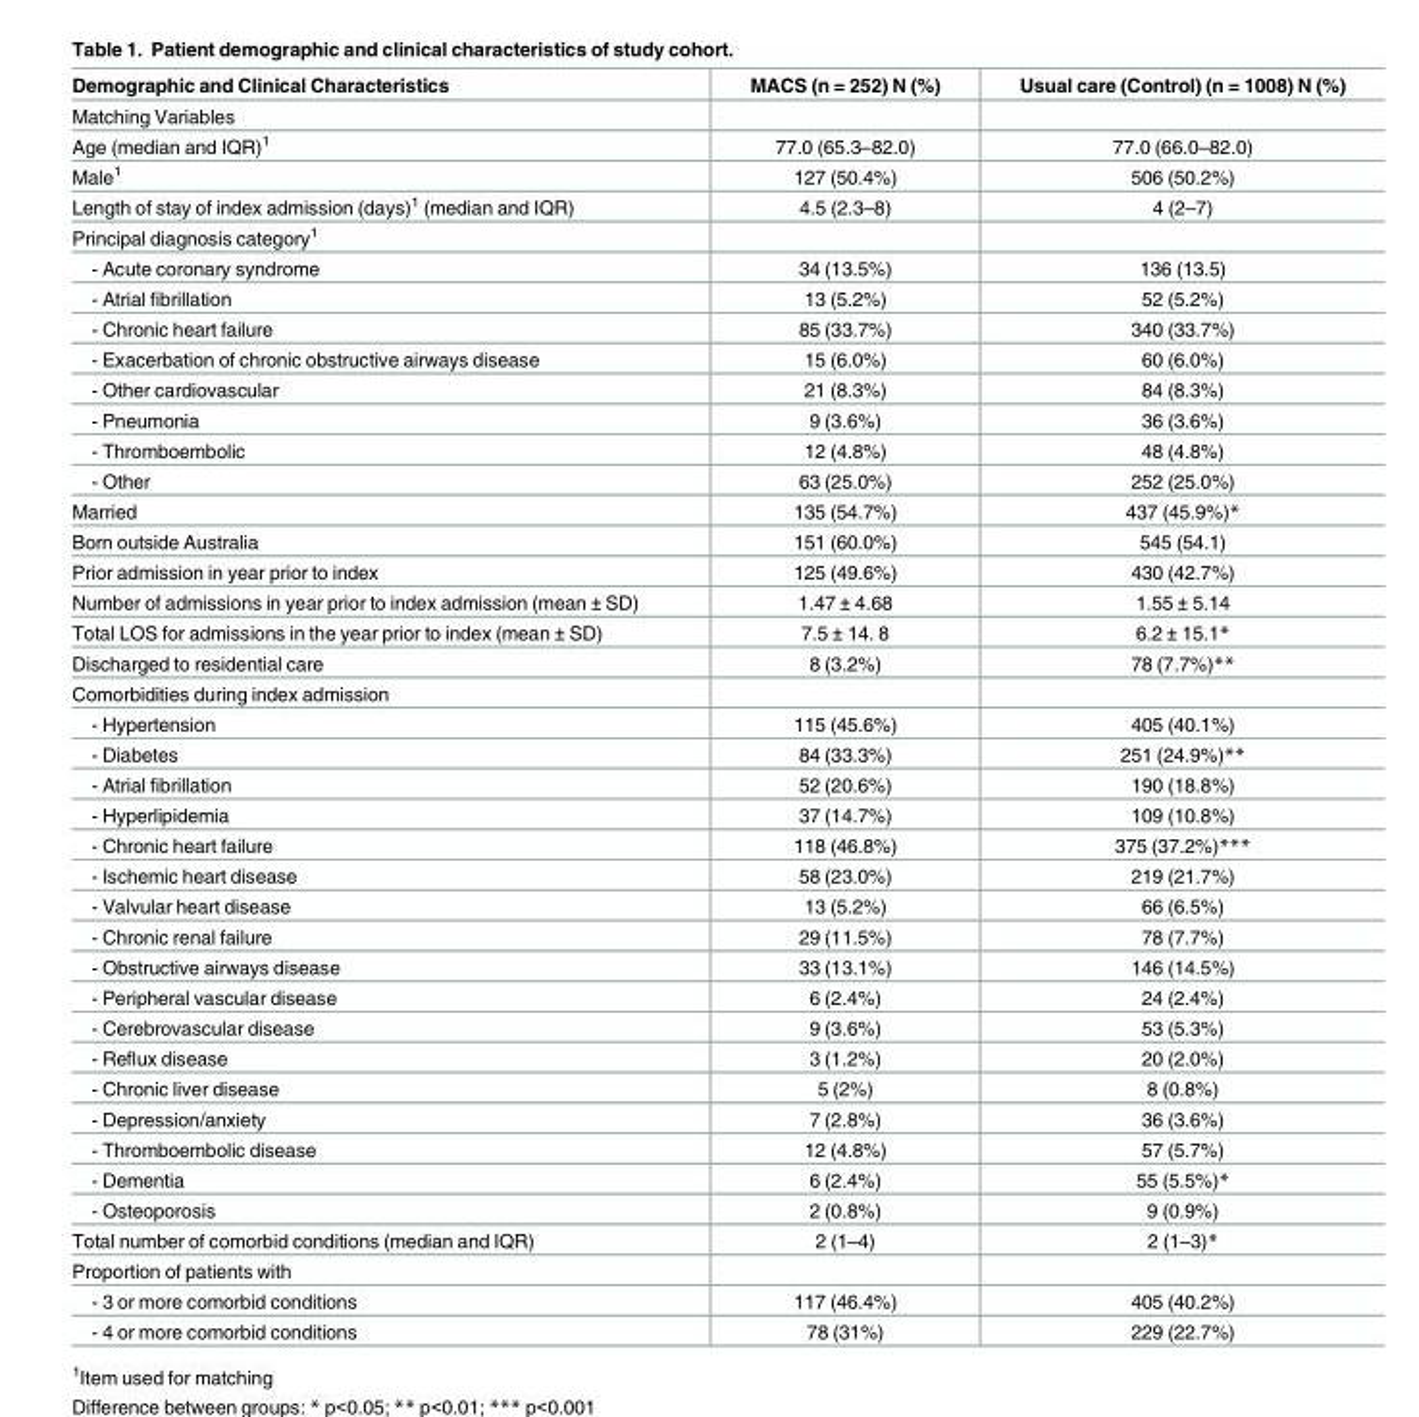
<table><thead><tr><td>Demographic and Clinical Characteristics</td><td>MACS (n = 252) N (%)</td><td>Usual care (Control) (n = 1008) N (%)</td></tr></thead><tbody><tr><td colspan="3">Matching Variables</td></tr><tr><td>Age (median and IQR)<sup>1</sup></td><td>77.0 (65.3–82.0)</td><td>77.0 (66.0–82.0)</td></tr><tr><td>Male<sup>1</sup></td><td>127 (50.4%)</td><td>506 (50.2%)</td></tr><tr><td>Length of stay of index admission (days)<sup>1</sup> (median and IQR)</td><td>4.5 (2.3–8)</td><td>4 (2–7)</td></tr><tr><td colspan="3">Principal diagnosis category<sup>1</sup></td></tr><tr><td>- Acute coronary syndrome</td><td>34 (13.5%)</td><td>136 (13.5)</td></tr><tr><td>- Atrial fibrillation</td><td>13 (5.2%)</td><td>52 (5.2%)</td></tr><tr><td>- Chronic heart failure</td><td>85 (33.7%)</td><td>340 (33.7%)</td></tr><tr><td>- Exacerbation of chronic obstructive airways disease</td><td>15 (6.0%)</td><td>60 (6.0%)</td></tr><tr><td>- Other cardiovascular</td><td>21 (8.3%)</td><td>84 (8.3%)</td></tr><tr><td>- Pneumonia</td><td>9 (3.6%)</td><td>36 (3.6%)</td></tr><tr><td>- Thromboembolic</td><td>12 (4.8%)</td><td>48 (4.8%)</td></tr><tr><td>- Other</td><td>63 (25.0%)</td><td>252 (25.0%)</td></tr><tr><td>Married</td><td>135 (54.7%)</td><td>437 (45.9%)*</td></tr><tr><td>Born outside Australia</td><td>151 (60.0%)</td><td>545 (54.1)</td></tr><tr><td>Prior admission in year prior to index</td><td>125 (49.6%)</td><td>430 (42.7%)</td></tr><tr><td>Number of admissions in year prior to index admission (mean ± SD)</td><td>1.47 ± 4.68</td><td>1.55 ± 5.14</td></tr><tr><td>Total LOS for admissions in the year prior to index (mean ± SD)</td><td>7.5 ± 14. 8</td><td>6.2 ± 15.1*</td></tr><tr><td>Discharged to residential care</td><td>8 (3.2%)</td><td>78 (7.7%)**</td></tr><tr><td colspan="3">Comorbidities during index admission</td></tr><tr><td>- Hypertension</td><td>115 (45.6%)</td><td>405 (40.1%)</td></tr><tr><td>- Diabetes</td><td>84 (33.3%)</td><td>251 (24.9%)**</td></tr><tr><td>- Atrial fibrillation</td><td>52 (20.6%)</td><td>190 (18.8%)</td></tr><tr><td>- Hyperlipidemia</td><td>37 (14.7%)</td><td>109 (10.8%)</td></tr><tr><td>- Chronic heart failure</td><td>118 (46.8%)</td><td>375 (37.2%)***</td></tr><tr><td>- Ischemic heart disease</td><td>58 (23.0%)</td><td>219 (21.7%)</td></tr><tr><td>- Valvular heart disease</td><td>13 (5.2%)</td><td>66 (6.5%)</td></tr><tr><td>- Chronic renal failure</td><td>29 (11.5%)</td><td>78 (7.7%)</td></tr><tr><td>- Obstructive airways disease</td><td>33 (13.1%)</td><td>146 (14.5%)</td></tr><tr><td>- Peripheral vascular disease</td><td>6 (2.4%)</td><td>24 (2.4%)</td></tr><tr><td>- Cerebrovascular disease</td><td>9 (3.6%)</td><td>53 (5.3%)</td></tr><tr><td>- Reflux disease</td><td>3 (1.2%)</td><td>20 (2.0%)</td></tr><tr><td>- Chronic liver disease</td><td>5 (2%)</td><td>8 (0.8%)</td></tr><tr><td>- Depression/anxiety</td><td>7 (2.8%)</td><td>36 (3.6%)</td></tr><tr><td>- Thromboembolic disease</td><td>12 (4.8%)</td><td>57 (5.7%)</td></tr><tr><td>- Dementia</td><td>6 (2.4%)</td><td>55 (5.5%)*</td></tr><tr><td>- Osteoporosis</td><td>2 (0.8%)</td><td>9 (0.9%)</td></tr><tr><td>Total number of comorbid conditions (median and IQR)</td><td>2 (1–4)</td><td>2 (1–3)*</td></tr><tr><td colspan="3">Proportion of patients with</td></tr><tr><td>- 3 or more comorbid conditions</td><td>117 (46.4%)</td><td>405 (40.2%)</td></tr><tr><td>- 4 or more comorbid conditions</td><td>78 (31%)</td><td>229 (22.7%)</td></tr></tbody></table>